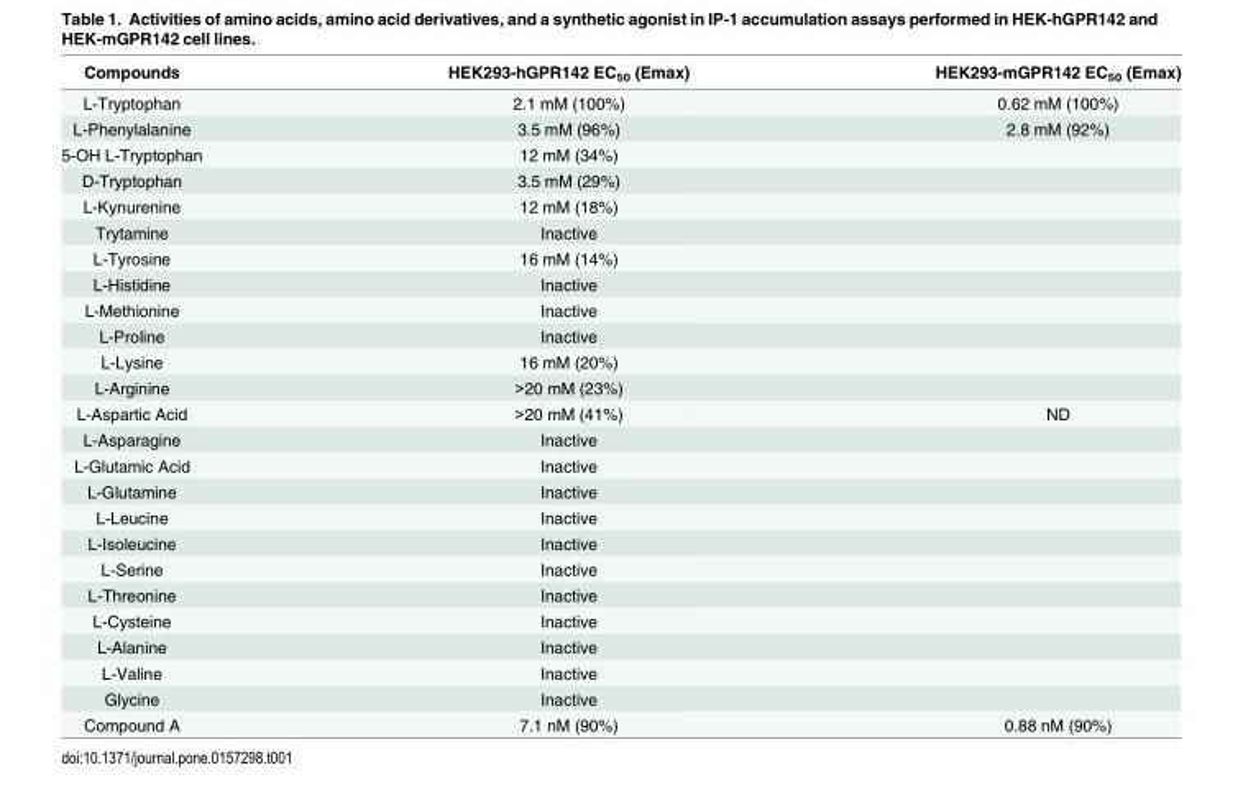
<table><thead><tr><td>Compounds</td><td>HEK293-hGPR142 EC<sub>50</sub> (Emax)</td><td>HEK293-mGPR142 EC<sub>50</sub> (Emax)</td></tr></thead><tbody><tr><td>L-Tryptophan</td><td>2.1 mM (100%)</td><td>0.62 mM (100%)</td></tr><tr><td>L-Phenylalanine</td><td>3.5 mM (96%)</td><td>2.8 mM (92%)</td></tr><tr><td>5-OH L-Tryptophan</td><td>12 mM (34%)</td><td></td></tr><tr><td>D-Tryptophan</td><td>3.5 mM (29%)</td><td></td></tr><tr><td>L-Kynurenine</td><td>12 mM (18%)</td><td></td></tr><tr><td>Trytamine</td><td>Inactive</td><td></td></tr><tr><td>L-Tyrosine</td><td>16 mM (14%)</td><td></td></tr><tr><td>L-Histidine</td><td>Inactive</td><td></td></tr><tr><td>L-Methionine</td><td>Inactive</td><td></td></tr><tr><td>L-Proline</td><td>Inactive</td><td></td></tr><tr><td>L-Lysine</td><td>16 mM (20%)</td><td></td></tr><tr><td>L-Arginine</td><td>&gt;20 mM (23%)</td><td></td></tr><tr><td>L-Aspartic Acid</td><td>&gt;20 mM (41%)</td><td>ND</td></tr><tr><td>L-Asparagine</td><td>Inactive</td><td></td></tr><tr><td>L-Glutamic Acid</td><td>Inactive</td><td></td></tr><tr><td>L-Glutamine</td><td>Inactive</td><td></td></tr><tr><td>L-Leucine</td><td>Inactive</td><td></td></tr><tr><td>L-Isoleucine</td><td>Inactive</td><td></td></tr><tr><td>L-Serine</td><td>Inactive</td><td></td></tr><tr><td>L-Threonine</td><td>Inactive</td><td></td></tr><tr><td>L-Cysteine</td><td>Inactive</td><td></td></tr><tr><td>L-Alanine</td><td>Inactive</td><td></td></tr><tr><td>L-Valine</td><td>Inactive</td><td></td></tr><tr><td>Glycine</td><td>Inactive</td><td></td></tr><tr><td>Compound A</td><td>7.1 nM (90%)</td><td>0.88 nM (90%)</td></tr></tbody></table>